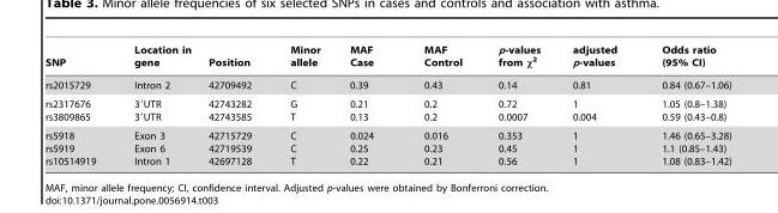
<table><thead><tr><td>SNP</td><td>Location in gene</td><td>Position</td><td>Minor allele</td><td>MAF Case</td><td>MAF Control</td><td>p-values from χ<sup>2</sup></td><td>adjusted p-values</td><td>Odds ratio (95% CI)</td></tr></thead><tbody><tr><td>rs2015729</td><td>Intron 2</td><td>42709492</td><td>C</td><td>0.39</td><td>0.43</td><td>0.14</td><td>0.81</td><td>0.84 (0.67–1.06)</td></tr><tr><td>rs2317676 rs3809865</td><td>3′UTR 3′UTR</td><td>42743282 42743585</td><td>G T</td><td>0.21 0.13</td><td>0.2 0.2</td><td>0.72 0.0007</td><td>1 0.004</td><td>1.05 (0.8–1.38) 0.59 (0.43–0.8)</td></tr><tr><td>rs5918 rs5919 rs10514919</td><td>Exon 3 Exon 6 Intron 1</td><td>42715729 42719539 42697128</td><td>C C T</td><td>0.024 0.25 0.22</td><td>0.016 0.23 0.21</td><td>0.353 0.45 0.56</td><td>1 1 1</td><td>1.46 (0.65–3.28) 1.1 (0.85–1.43) 1.08 (0.83–1.42)</td></tr></tbody></table>